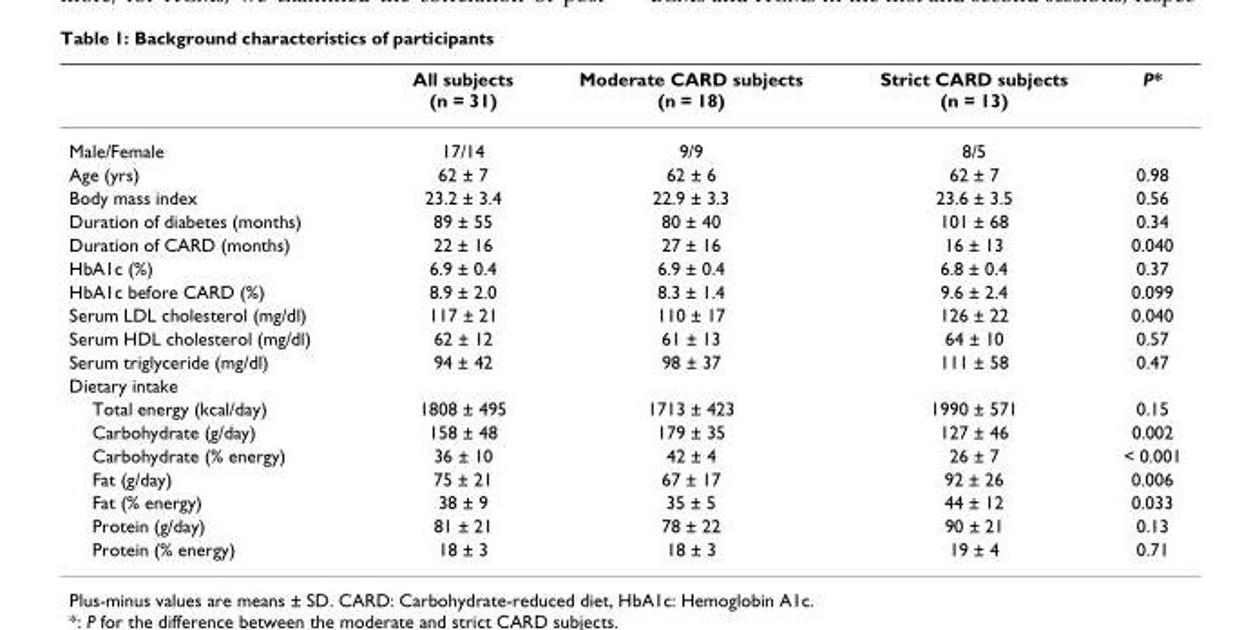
<table><thead><tr><td></td><td>All subjects (n = 31)</td><td>Moderate CARD subjects (n = 18)</td><td>Strict CARD subjects (n = 13)</td><td>P*</td></tr></thead><tbody><tr><td>Male/Female</td><td>17/14</td><td>9/9</td><td>8/5</td><td></td></tr><tr><td>Age (yrs)</td><td>62 ± 7</td><td>62 ± 6</td><td>62 ± 7</td><td>0.98</td></tr><tr><td>Body mass index</td><td>23.2 ± 3.4</td><td>22.9 ± 3.3</td><td>23.6 ± 3.5</td><td>0.56</td></tr><tr><td>Duration of diabetes (months)</td><td>89 ± 55</td><td>80 ± 40</td><td>101 ± 68</td><td>0.34</td></tr><tr><td>Duration of CARD (months)</td><td>22 ± 16</td><td>27 ± 16</td><td>16 ± 13</td><td>0.040</td></tr><tr><td>HbA1c (%)</td><td>6.9 ± 0.4</td><td>6.9 ± 0.4</td><td>6.8 ± 0.4</td><td>0.37</td></tr><tr><td>HbA1c before CARD (%)</td><td>8.9 ± 2.0</td><td>8.3 ± 1.4</td><td>9.6 ± 2.4</td><td>0.099</td></tr><tr><td>Serum LDL cholesterol (mg/dl)</td><td>117 ± 21</td><td>110 ± 17</td><td>126 ± 22</td><td>0.040</td></tr><tr><td>Serum HDL cholesterol (mg/dl)</td><td>62 ± 12</td><td>61 ± 13</td><td>64 ± 10</td><td>0.57</td></tr><tr><td>Serum triglyceride (mg/dl)</td><td>94 ± 42</td><td>98 ± 37</td><td>111 ± 58</td><td>0.47</td></tr><tr><td colspan="5">Dietary intake</td></tr><tr><td>Total energy (kcal/day)</td><td>1808 ± 495</td><td>1713 ± 423</td><td>1990 ± 571</td><td>0.15</td></tr><tr><td>Carbohydrate (g/day)</td><td>158 ± 48</td><td>179 ± 35</td><td>127 ± 46</td><td>0.002</td></tr><tr><td>Carbohydrate (% energy)</td><td>36 ± 10</td><td>42 ± 4</td><td>26 ± 7</td><td>&lt; 0.001</td></tr><tr><td>Fat (g/day)</td><td>75 ± 21</td><td>67 ± 17</td><td>92 ± 26</td><td>0.006</td></tr><tr><td>Fat (% energy)</td><td>38 ± 9</td><td>35 ± 5</td><td>44 ± 12</td><td>0.033</td></tr><tr><td>Protein (g/day)</td><td>81 ± 21</td><td>78 ± 22</td><td>90 ± 21</td><td>0.13</td></tr><tr><td>Protein (% energy)</td><td>18 ± 3</td><td>18 ± 3</td><td>19 ± 4</td><td>0.71</td></tr></tbody></table>